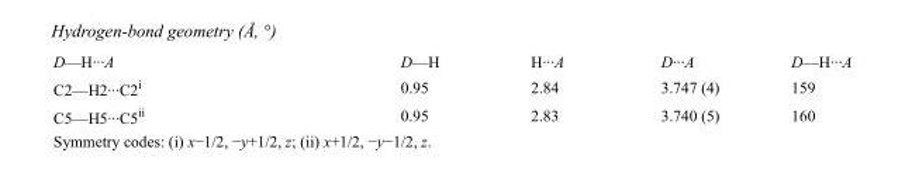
<table><tbody><tr><td>D—H···A</td><td>D—H</td><td>H···A</td><td>D···A</td><td>D—H···A</td></tr><tr><td>C2—H2···C2<sup>i</sup></td><td>0.95</td><td>2.84</td><td>3.747 (4)</td><td>159</td></tr><tr><td>C5—H5···C5<sup>ii</sup></td><td>0.95</td><td>2.83</td><td>3.740 (5)</td><td>160</td></tr></tbody></table>